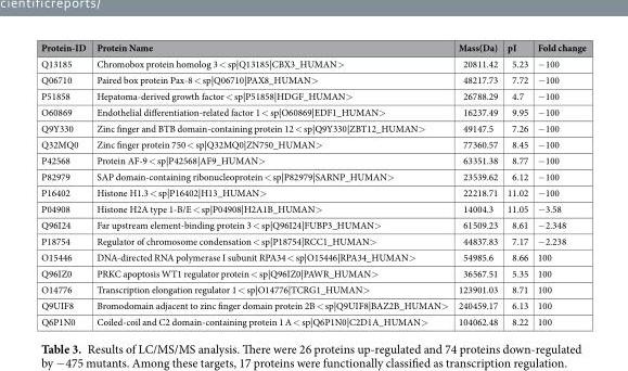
<table><thead><tr><td>Protein-ID</td><td>Protein Name</td><td>Mass(Da)</td><td>pI</td><td>Fold change</td></tr></thead><tbody><tr><td>Q13185</td><td>Chromobox protein homolog 3 &lt; sp|Q13185|CBX3_HUMAN&gt;</td><td>20811.42</td><td>5.23</td><td>−100</td></tr><tr><td>Q06710</td><td>Paired box protein Pax-8 &lt; sp|Q06710|PAX8_HUMAN&gt;</td><td>48217.73</td><td>7.72</td><td>−100</td></tr><tr><td>P51858</td><td>Hepatoma-derived growth factor &lt; sp|P51858|HDGF_HUMAN&gt;</td><td>26788.29</td><td>4.7</td><td>−100</td></tr><tr><td>O60869</td><td>Endothelial differentiation-related factor 1 &lt; sp|O60869|EDF1_HUMAN&gt;</td><td>16237.49</td><td>9.95</td><td>−100</td></tr><tr><td>Q9Y330</td><td>Zinc finger and BTB domain-containing protein 12 &lt; sp|Q9Y330|ZBT12_HUMAN&gt;</td><td>49147.5</td><td>7.26</td><td>−100</td></tr><tr><td>Q32MQ0</td><td>Zinc finger protein 750 &lt; sp|Q32MQ0|ZN750_HUMAN&gt;</td><td>77360.57</td><td>8.45</td><td>−100</td></tr><tr><td>P42568</td><td>Protein AF-9 &lt; sp|P42568|AF9_HUMAN&gt;</td><td>63351.38</td><td>8.77</td><td>−100</td></tr><tr><td>P82979</td><td>SAP domain-containing ribonucleoprotein &lt; sp|P82979|SARNP_HUMAN&gt;</td><td>23539.62</td><td>6.12</td><td>−100</td></tr><tr><td>P16402</td><td>Histone H1.3 &lt; sp|P16402|H13_HUMAN&gt;</td><td>22218.71</td><td>11.02</td><td>−100</td></tr><tr><td>P04908</td><td>Histone H2A type 1-B/E &lt; sp|P04908|H2A1B_HUMAN&gt;</td><td>14004.3</td><td>11.05</td><td>−3.58</td></tr><tr><td>Q96I24</td><td>Far upstream element-binding protein 3 &lt; sp|Q96I24|FUBP3_HUMAN&gt;</td><td>61509.23</td><td>8.61</td><td>−2.348</td></tr><tr><td>P18754</td><td>Regulator of chromosome condensation &lt; sp|P18754|RCC1_HUMAN&gt;</td><td>44837.83</td><td>7.17</td><td>−2.238</td></tr><tr><td>O15446</td><td>DNA-directed RNA polymerase I subunit RPA34 &lt; sp|O15446|RPA34_HUMAN&gt;</td><td>54985.6</td><td>8.66</td><td>100</td></tr><tr><td>Q96IZ0</td><td>PRKC apoptosis WT1 regulator protein &lt; sp|Q96IZ0|PAWR_HUMAN&gt;</td><td>36567.51</td><td>5.35</td><td>100</td></tr><tr><td>O14776</td><td>Transcription elongation regulator 1 &lt; sp|O14776|TCRG1_HUMAN&gt;</td><td>123901.03</td><td>8.71</td><td>100</td></tr><tr><td>Q9UIF8</td><td>Bromodomain adjacent to zinc finger domain protein 2B &lt; sp|Q9UIF8|BAZ2B_HUMAN&gt;</td><td>240459.17</td><td>6.13</td><td>100</td></tr><tr><td>Q6P1N0</td><td>Coiled-coil and C2 domain-containing protein 1 A &lt; sp|Q6P1N0|C2D1A_HUMAN&gt;</td><td>104062.48</td><td>8.22</td><td>100</td></tr></tbody></table>